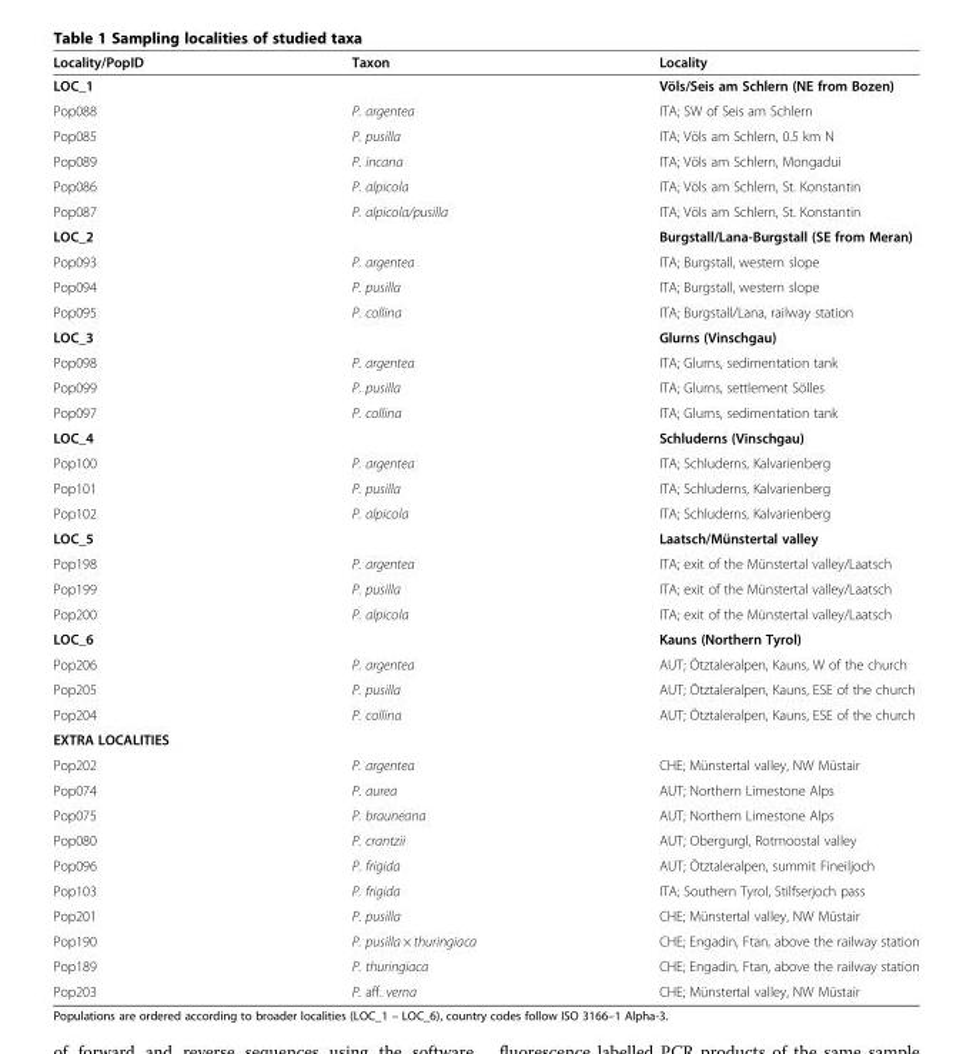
<table><thead><tr><td>Locality/PopID</td><td>Taxon</td><td>Locality</td></tr></thead><tbody><tr><td>LOC_1</td><td></td><td>Völs/Seis am Schlern (NE from Bozen)</td></tr><tr><td>Pop088</td><td>P. argentea</td><td>ITA; SW of Seis am Schlern</td></tr><tr><td>Pop085</td><td>P. pusilla</td><td>ITA; Völs am Schlern, 0.5 km N</td></tr><tr><td>Pop089</td><td>P. incana</td><td>ITA; Völs am Schlern, Mongadui</td></tr><tr><td>Pop086</td><td>P. alpicola</td><td>ITA; Völs am Schlern, St. Konstantin</td></tr><tr><td>Pop087</td><td>P. alpicola/pusilla</td><td>ITA; Völs am Schlern, St. Konstantin</td></tr><tr><td>LOC_2</td><td></td><td>Burgstall/Lana-Burgstall (SE from Meran)</td></tr><tr><td>Pop093</td><td>P. argentea</td><td>ITA; Burgstall, western slope</td></tr><tr><td>Pop094</td><td>P. pusilla</td><td>ITA; Burgstall, western slope</td></tr><tr><td>Pop095</td><td>P. collina</td><td>ITA; Burgstall/Lana, railway station</td></tr><tr><td>LOC_3</td><td></td><td>Glurns (Vinschgau)</td></tr><tr><td>Pop098</td><td>P. argentea</td><td>ITA; Glurns, sedimentation tank</td></tr><tr><td>Pop099</td><td>P. pusilla</td><td>ITA; Glurns, settlement Sölles</td></tr><tr><td>Pop097</td><td>P. collina</td><td>ITA; Glurns, sedimentation tank</td></tr><tr><td>LOC_4</td><td></td><td>Schluderns (Vinschgau)</td></tr><tr><td>Pop100</td><td>P. argentea</td><td>ITA; Schluderns, Kalvarienberg</td></tr><tr><td>Pop101</td><td>P. pusilla</td><td>ITA; Schluderns, Kalvarienberg</td></tr><tr><td>Pop102</td><td>P. alpicola</td><td>ITA; Schluderns, Kalvarienberg</td></tr><tr><td>LOC_5</td><td></td><td>Laatsch/Münstertal valley</td></tr><tr><td>Pop198</td><td>P. argentea</td><td>ITA; exit of the Münstertal valley/Laatsch</td></tr><tr><td>Pop199</td><td>P. pusilla</td><td>ITA; exit of the Münstertal valley/Laatsch</td></tr><tr><td>Pop200</td><td>P. alpicola</td><td>ITA; exit of the Münstertal valley/Laatsch</td></tr><tr><td>LOC_6</td><td></td><td>Kauns (Northern Tyrol)</td></tr><tr><td>Pop206</td><td>P. argentea</td><td>AUT; Ötztaleralpen, Kauns, W of the church</td></tr><tr><td>Pop205</td><td>P. pusilla</td><td>AUT; Ötztaleralpen, Kauns, ESE of the church</td></tr><tr><td>Pop204</td><td>P. collina</td><td>AUT; Ötztaleralpen, Kauns, ESE of the church</td></tr><tr><td colspan="3">EXTRA LOCALITIES</td></tr><tr><td>Pop202</td><td>P. argentea</td><td>CHE; Münstertal valley, NW Müstair</td></tr><tr><td>Pop074</td><td>P. aurea</td><td>AUT; Northern Limestone Alps</td></tr><tr><td>Pop075</td><td>P. brauneana</td><td>AUT; Northern Limestone Alps</td></tr><tr><td>Pop080</td><td>P. crantzii</td><td>AUT; Obergurgl, Rotmoostal valley</td></tr><tr><td>Pop096</td><td>P. frigida</td><td>AUT; Ötztaleralpen, summit Fineiljoch</td></tr><tr><td>Pop103</td><td>P. frigida</td><td>ITA; Southern Tyrol, Stilfserjoch pass</td></tr><tr><td>Pop201</td><td>P. pusilla</td><td>CHE; Münstertal valley, NW Müstair</td></tr><tr><td>Pop190</td><td>P. pusilla × thuringiaca</td><td>CHE; Engadin, Ftan, above the railway station</td></tr><tr><td>Pop189</td><td>P. thuringiaca</td><td>CHE; Engadin, Ftan, above the railway station</td></tr><tr><td>Pop203</td><td>P. aff. verna</td><td>CHE; Münstertal valley, NW Müstair</td></tr></tbody></table>